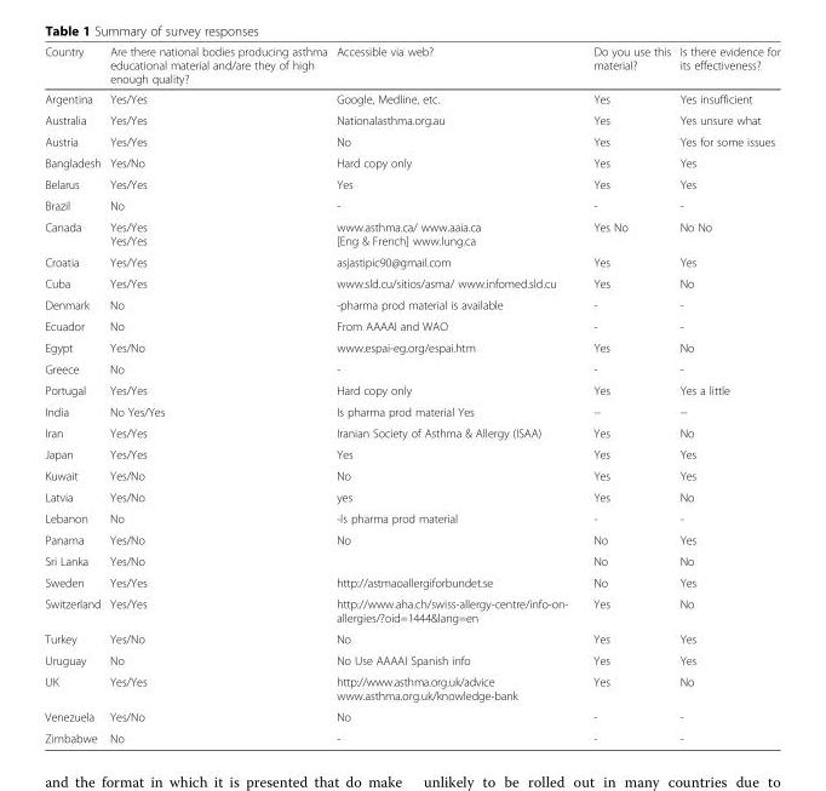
<table><thead><tr><td>Country</td><td>Are there national bodies producing asthma educational material and/are they of high enough quality?</td><td>Accessible via web?</td><td>Do you use this material?</td><td>Is there evidence for its effectiveness?</td></tr></thead><tbody><tr><td>Argentina</td><td>Yes/Yes</td><td>Google, Medline, etc.</td><td>Yes</td><td>Yes insufficient</td></tr><tr><td>Australia</td><td>Yes/Yes</td><td>Nationalasthma.org.au</td><td>Yes</td><td>Yes unsure what</td></tr><tr><td>Austria</td><td>Yes/Yes</td><td>No</td><td>Yes</td><td>Yes for some issues</td></tr><tr><td>Bangladesh</td><td>Yes/No</td><td>Hard copy only</td><td>Yes</td><td>Yes</td></tr><tr><td>Belarus</td><td>Yes/Yes</td><td>Yes</td><td>Yes</td><td>Yes</td></tr><tr><td>Brazil</td><td>No</td><td>-</td><td>-</td><td>-</td></tr><tr><td>Canada</td><td>Yes/Yes Yes/Yes</td><td>www.asthma.ca/ www.aaia.ca [Eng &amp; French] www.lung.ca</td><td>Yes No</td><td>No No</td></tr><tr><td>Croatia</td><td>Yes/Yes</td><td>asjastipic90@gmail.com</td><td>Yes</td><td>Yes</td></tr><tr><td>Cuba</td><td>Yes/Yes</td><td>www.sld.cu/sitios/asma/ www.infomed.sld.cu</td><td>Yes</td><td>No</td></tr><tr><td>Denmark</td><td>No</td><td>-pharma prod material is available</td><td>-</td><td>-</td></tr><tr><td>Ecuador</td><td>No</td><td>From AAAAI and WAO</td><td>-</td><td>-</td></tr><tr><td>Egypt</td><td>Yes/No</td><td>www.espai-eg.org/espai.htm</td><td>Yes</td><td>No</td></tr><tr><td>Greece</td><td>No</td><td>-</td><td>-</td><td>-</td></tr><tr><td>Portugal</td><td>Yes/Yes</td><td>Hard copy only</td><td>Yes</td><td>Yes a little</td></tr><tr><td>India</td><td>No Yes/Yes</td><td>Is pharma prod material Yes</td><td>--</td><td>--</td></tr><tr><td>Iran</td><td>Yes/Yes</td><td>Iranian Society of Asthma &amp; Allergy (ISAA)</td><td>Yes</td><td>No</td></tr><tr><td>Japan</td><td>Yes/Yes</td><td>Yes</td><td>Yes</td><td>Yes</td></tr><tr><td>Kuwait</td><td>Yes/No</td><td>No</td><td>Yes</td><td>Yes</td></tr><tr><td>Latvia</td><td>Yes/No</td><td>yes</td><td>Yes</td><td>No</td></tr><tr><td>Lebanon</td><td>No</td><td>-Is pharma prod material</td><td>-</td><td>-</td></tr><tr><td>Panama</td><td>Yes/No</td><td>No</td><td>No</td><td>Yes</td></tr><tr><td>Sri Lanka</td><td>Yes/No</td><td></td><td>No</td><td>No</td></tr><tr><td>Sweden</td><td>Yes/Yes</td><td>http://astmaoallergiforbundet.se</td><td>No</td><td>Yes</td></tr><tr><td>Switzerland</td><td>Yes/Yes</td><td>http://www.aha.ch/swiss-allergy-centre/info-on- allergies/?oid=1444&amp;lang=en</td><td>Yes</td><td>No</td></tr><tr><td>Turkey</td><td>Yes/No</td><td>No</td><td>Yes</td><td>Yes</td></tr><tr><td>Uruguay</td><td>No</td><td>No Use AAAAI Spanish info</td><td>Yes</td><td>Yes</td></tr><tr><td>UK</td><td>Yes/Yes</td><td>http://www.asthma.org.uk/advice www.asthma.org.uk/knowledge-bank</td><td>Yes</td><td>No</td></tr><tr><td>Venezuela</td><td>Yes/No</td><td>No</td><td>-</td><td>-</td></tr><tr><td>Zimbabwe</td><td>No</td><td>-</td><td>-</td><td>-</td></tr></tbody></table>